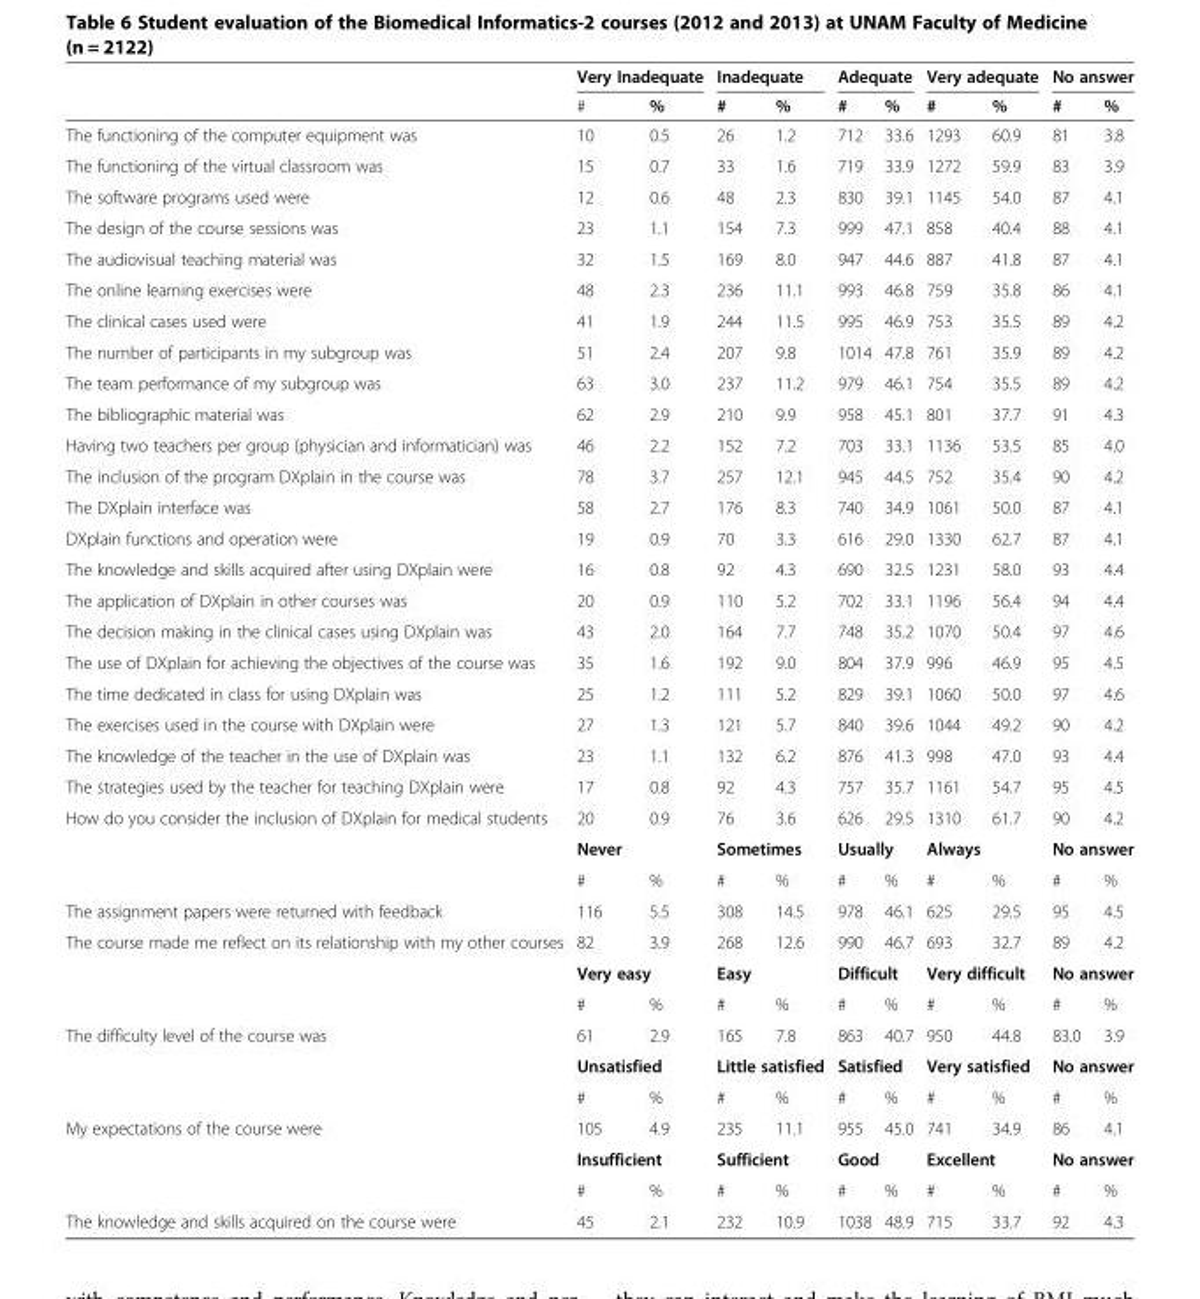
<table><thead><tr><td rowspan="2"></td><td colspan="2">Very Inadequate</td><td colspan="2">Inadequate</td><td colspan="2">Adequate</td><td colspan="2">Very adequate</td><td colspan="2">No answer</td></tr><tr><td>#</td><td>%</td><td>#</td><td>%</td><td>#</td><td>%</td><td>#</td><td>%</td><td>#</td><td>%</td></tr></thead><tbody><tr><td>The functioning of the computer equipment was</td><td>10</td><td>0.5</td><td>26</td><td>1.2</td><td>712</td><td>33.6</td><td>1293</td><td>60.9</td><td>81</td><td>3.8</td></tr><tr><td>The functioning of the virtual classroom was</td><td>15</td><td>0.7</td><td>33</td><td>1.6</td><td>719</td><td>33.9</td><td>1272</td><td>59.9</td><td>83</td><td>3.9</td></tr><tr><td>The software programs used were</td><td>12</td><td>0.6</td><td>48</td><td>2.3</td><td>830</td><td>39.1</td><td>1145</td><td>54.0</td><td>87</td><td>4.1</td></tr><tr><td>The design of the course sessions was</td><td>23</td><td>1.1</td><td>154</td><td>7.3</td><td>999</td><td>47.1</td><td>858</td><td>40.4</td><td>88</td><td>4.1</td></tr><tr><td>The audiovisual teaching material was</td><td>32</td><td>1.5</td><td>169</td><td>8.0</td><td>947</td><td>44.6</td><td>887</td><td>41.8</td><td>87</td><td>4.1</td></tr><tr><td>The online learning exercises were</td><td>48</td><td>2.3</td><td>236</td><td>11.1</td><td>993</td><td>46.8</td><td>759</td><td>35.8</td><td>86</td><td>4.1</td></tr><tr><td>The clinical cases used were</td><td>41</td><td>1.9</td><td>244</td><td>11.5</td><td>995</td><td>46.9</td><td>753</td><td>35.5</td><td>89</td><td>4.2</td></tr><tr><td>The number of participants in my subgroup was</td><td>51</td><td>2.4</td><td>207</td><td>9.8</td><td>1014</td><td>47.8</td><td>761</td><td>35.9</td><td>89</td><td>4.2</td></tr><tr><td>The team performance of my subgroup was</td><td>63</td><td>3.0</td><td>237</td><td>11.2</td><td>979</td><td>46.1</td><td>754</td><td>35.5</td><td>89</td><td>4.2</td></tr><tr><td>The bibliographic material was</td><td>62</td><td>2.9</td><td>210</td><td>9.9</td><td>958</td><td>45.1</td><td>801</td><td>37.7</td><td>91</td><td>4.3</td></tr><tr><td>Having two teachers per group (physician and informatician) was</td><td>46</td><td>2.2</td><td>152</td><td>7.2</td><td>703</td><td>33.1</td><td>1136</td><td>53.5</td><td>85</td><td>4.0</td></tr><tr><td>The inclusion of the program DXplain in the course was</td><td>78</td><td>3.7</td><td>257</td><td>12.1</td><td>945</td><td>44.5</td><td>752</td><td>35.4</td><td>90</td><td>4.2</td></tr><tr><td>The DXplain interface was</td><td>58</td><td>2.7</td><td>176</td><td>8.3</td><td>740</td><td>34.9</td><td>1061</td><td>50.0</td><td>87</td><td>4.1</td></tr><tr><td>DXplain functions and operation were</td><td>19</td><td>0.9</td><td>70</td><td>3.3</td><td>616</td><td>29.0</td><td>1330</td><td>62.7</td><td>87</td><td>4.1</td></tr><tr><td>The knowledge and skills acquired after using DXplain were</td><td>16</td><td>0.8</td><td>92</td><td>4.3</td><td>690</td><td>32.5</td><td>1231</td><td>58.0</td><td>93</td><td>4.4</td></tr><tr><td>The application of DXplain in other courses was</td><td>20</td><td>0.9</td><td>110</td><td>5.2</td><td>702</td><td>33.1</td><td>1196</td><td>56.4</td><td>94</td><td>4.4</td></tr><tr><td>The decision making in the clinical cases using DXplain was</td><td>43</td><td>2.0</td><td>164</td><td>7.7</td><td>748</td><td>35.2</td><td>1070</td><td>50.4</td><td>97</td><td>4.6</td></tr><tr><td>The use of DXplain for achieving the objectives of the course was</td><td>35</td><td>1.6</td><td>192</td><td>9.0</td><td>804</td><td>37.9</td><td>996</td><td>46.9</td><td>95</td><td>4.5</td></tr><tr><td>The time dedicated in class for using DXplain was</td><td>25</td><td>1.2</td><td>111</td><td>5.2</td><td>829</td><td>39.1</td><td>1060</td><td>50.0</td><td>97</td><td>4.6</td></tr><tr><td>The exercises used in the course with DXplain were</td><td>27</td><td>1.3</td><td>121</td><td>5.7</td><td>840</td><td>39.6</td><td>1044</td><td>49.2</td><td>90</td><td>4.2</td></tr><tr><td>The knowledge of the teacher in the use of DXplain was</td><td>23</td><td>1.1</td><td>132</td><td>6.2</td><td>876</td><td>41.3</td><td>998</td><td>47.0</td><td>93</td><td>4.4</td></tr><tr><td>The strategies used by the teacher for teaching DXplain were</td><td>17</td><td>0.8</td><td>92</td><td>4.3</td><td>757</td><td>35.7</td><td>1161</td><td>54.7</td><td>95</td><td>4.5</td></tr><tr><td rowspan="3">How do you consider the inclusion of DXplain for medical students</td><td>20</td><td>0.9</td><td>76</td><td>3.6</td><td>626</td><td>29.5</td><td>1310</td><td>61.7</td><td>90</td><td>4.2</td></tr><tr><td colspan="2">Never</td><td colspan="2">Sometimes</td><td colspan="2">Usually</td><td colspan="2">Always</td><td colspan="2">No answer</td></tr><tr><td>#</td><td>%</td><td>#</td><td>%</td><td>#</td><td>%</td><td>#</td><td>%</td><td>#</td><td>%</td></tr><tr><td>The assignment papers were returned with feedback</td><td>116</td><td>5.5</td><td>308</td><td>14.5</td><td>978</td><td>46.1</td><td>625</td><td>29.5</td><td>95</td><td>4.5</td></tr><tr><td rowspan="3">The course made me reflect on its relationship with my other courses</td><td>82</td><td>3.9</td><td>268</td><td>12.6</td><td>990</td><td>46.7</td><td>693</td><td>32.7</td><td>89</td><td>4.2</td></tr><tr><td colspan="2">Very easy</td><td colspan="2">Easy</td><td colspan="2">Difficult</td><td colspan="2">Very difficult</td><td colspan="2">No answer</td></tr><tr><td>#</td><td>%</td><td>#</td><td>%</td><td>#</td><td>%</td><td>#</td><td>%</td><td>#</td><td>%</td></tr><tr><td rowspan="3">The difficulty level of the course was</td><td>61</td><td>2.9</td><td>165</td><td>7.8</td><td>863</td><td>40.7</td><td>950</td><td>44.8</td><td>83.0</td><td>3.9</td></tr><tr><td colspan="2">Unsatisfied</td><td colspan="2">Little satisfied</td><td colspan="2">Satisfied</td><td colspan="2">Very satisfied</td><td colspan="2">No answer</td></tr><tr><td>#</td><td>%</td><td>#</td><td>%</td><td>#</td><td>%</td><td>#</td><td>%</td><td>#</td><td>%</td></tr><tr><td rowspan="3">My expectations of the course were</td><td>105</td><td>4.9</td><td>235</td><td>11.1</td><td>955</td><td>45.0</td><td>741</td><td>34.9</td><td>86</td><td>4.1</td></tr><tr><td colspan="2">Insufficient</td><td colspan="2">Sufficient</td><td colspan="2">Good</td><td colspan="2">Excellent</td><td colspan="2">No answer</td></tr><tr><td>#</td><td>%</td><td>#</td><td>%</td><td>#</td><td>%</td><td>#</td><td>%</td><td>#</td><td>%</td></tr><tr><td>The knowledge and skills acquired on the course were</td><td>45</td><td>2.1</td><td>232</td><td>10.9</td><td>1038</td><td>48.9</td><td>715</td><td>33.7</td><td>92</td><td>4.3</td></tr></tbody></table>